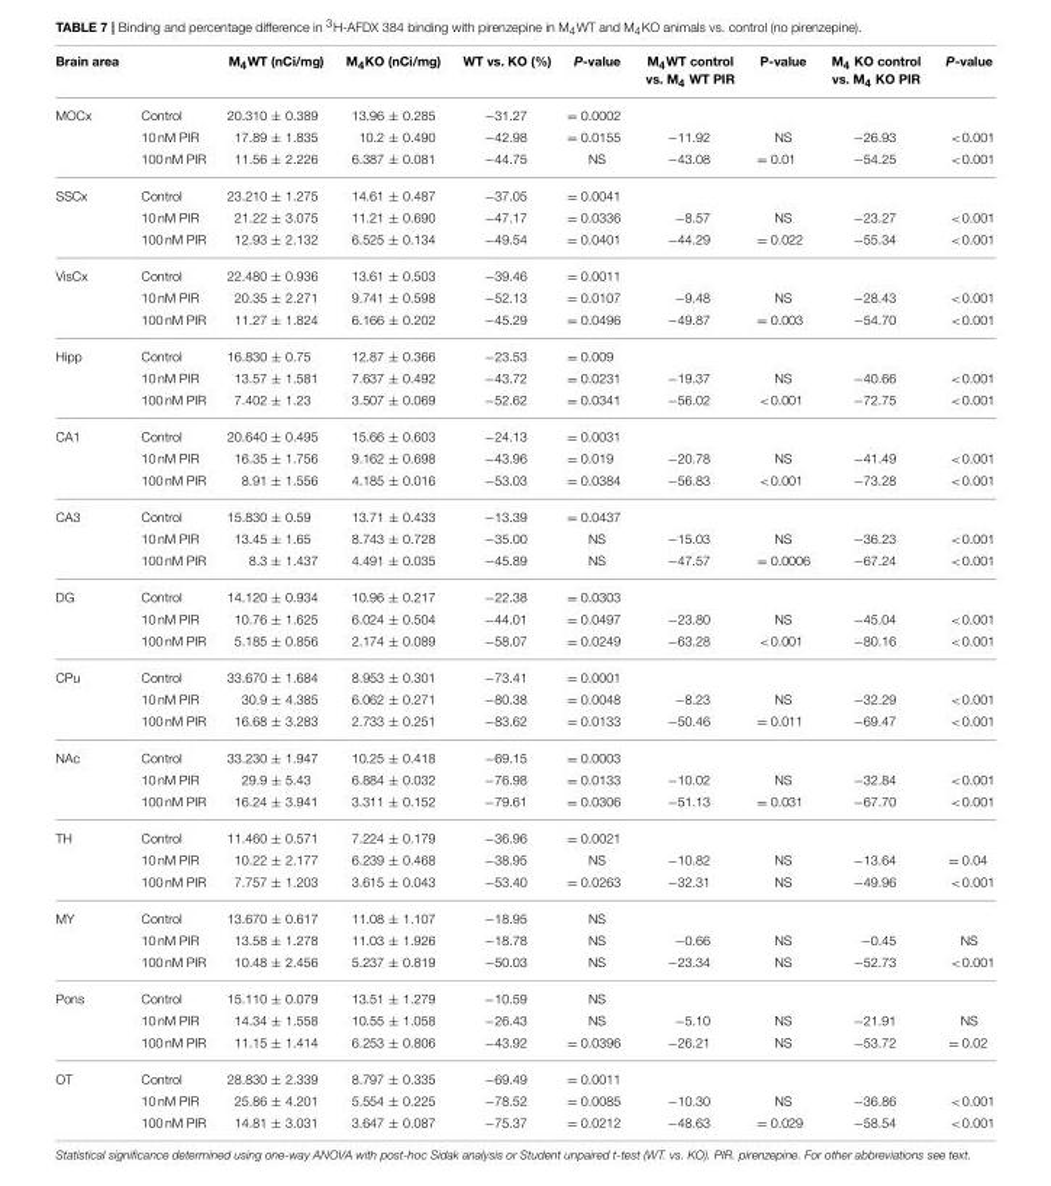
<table><thead><tr><td>Brain area</td><td></td><td>M<sub>4</sub>WT (nCi/mg)</td><td>M<sub>4</sub>KO (nCi/mg)</td><td>WT vs. KO (%)</td><td>P-value</td><td>M<sub>4</sub>WT control vs. M<sub>4</sub> WT PIR</td><td>P-value</td><td>M<sub>4</sub> KO control vs. M<sub>4</sub> KO PIR</td><td>P-value</td></tr></thead><tbody><tr><td rowspan="3">MOCx</td><td>Control</td><td>20.310 ± 0.389</td><td>13.96 ± 0.285</td><td>−31.27</td><td>= 0.0002</td><td></td><td></td><td></td><td></td></tr><tr><td>10 nM PIR</td><td>17.89 ± 1.835</td><td>10.2 ± 0.490</td><td>−42.98</td><td>= 0.0155</td><td>−11.92</td><td>NS</td><td>−26.93</td><td>&lt;0.001</td></tr><tr><td>100 nM PIR</td><td>11.56 ± 2.226</td><td>6.387 ± 0.081</td><td>−44.75</td><td>NS</td><td>−43.08</td><td>= 0.01</td><td>−54.25</td><td>&lt;0.001</td></tr><tr><td rowspan="3">SSCx</td><td>Control</td><td>23.210 ± 1.275</td><td>14.61 ± 0.487</td><td>−37.05</td><td>= 0.0041</td><td></td><td></td><td></td><td></td></tr><tr><td>10 nM PIR</td><td>21.22 ± 3.075</td><td>11.21 ± 0.690</td><td>−47.17</td><td>= 0.0336</td><td>−8.57</td><td>NS</td><td>−23.27</td><td>&lt;0.001</td></tr><tr><td>100 nM PIR</td><td>12.93 ± 2.132</td><td>6.525 ± 0.134</td><td>−49.54</td><td>= 0.0401</td><td>−44.29</td><td>= 0.022</td><td>−55.34</td><td>&lt;0.001</td></tr><tr><td rowspan="3">VisCx</td><td>Control</td><td>22.480 ± 0.936</td><td>13.61 ± 0.503</td><td>−39.46</td><td>= 0.0011</td><td></td><td></td><td></td><td></td></tr><tr><td>10 nM PIR</td><td>20.35 ± 2.271</td><td>9.741 ± 0.598</td><td>−52.13</td><td>= 0.0107</td><td>−9.48</td><td>NS</td><td>−28.43</td><td>&lt;0.001</td></tr><tr><td>100 nM PIR</td><td>11.27 ± 1.824</td><td>6.166 ± 0.202</td><td>−45.29</td><td>= 0.0496</td><td>−49.87</td><td>= 0.003</td><td>−54.70</td><td>&lt;0.001</td></tr><tr><td rowspan="3">Hipp</td><td>Control</td><td>16.830 ± 0.75</td><td>12.87 ± 0.366</td><td>−23.53</td><td>= 0.009</td><td></td><td></td><td></td><td></td></tr><tr><td>10 nM PIR</td><td>13.57 ± 1.581</td><td>7.637 ± 0.492</td><td>−43.72</td><td>= 0.0231</td><td>−19.37</td><td>NS</td><td>−40.66</td><td>&lt;0.001</td></tr><tr><td>100 nM PIR</td><td>7.402 ± 1.23</td><td>3.507 ± 0.069</td><td>−52.62</td><td>= 0.0341</td><td>−56.02</td><td>&lt;0.001</td><td>−72.75</td><td>&lt;0.001</td></tr><tr><td rowspan="3">CA1</td><td>Control</td><td>20.640 ± 0.495</td><td>15.66 ± 0.603</td><td>−24.13</td><td>= 0.0031</td><td></td><td></td><td></td><td></td></tr><tr><td>10 nM PIR</td><td>16.35 ± 1.756</td><td>9.162 ± 0.698</td><td>−43.96</td><td>= 0.019</td><td>−20.78</td><td>NS</td><td>−41.49</td><td>&lt;0.001</td></tr><tr><td>100 nM PIR</td><td>8.91 ± 1.556</td><td>4.185 ± 0.016</td><td>−53.03</td><td>= 0.0384</td><td>−56.83</td><td>&lt;0.001</td><td>−73.28</td><td>&lt;0.001</td></tr><tr><td rowspan="3">CA3</td><td>Control</td><td>15.830 ± 0.59</td><td>13.71 ± 0.433</td><td>−13.39</td><td>= 0.0437</td><td></td><td></td><td></td><td></td></tr><tr><td>10 nM PIR</td><td>13.45 ± 1.65</td><td>8.743 ± 0.728</td><td>−35.00</td><td>NS</td><td>−15.03</td><td>NS</td><td>−36.23</td><td>&lt;0.001</td></tr><tr><td>100 nM PIR</td><td>8.3 ± 1.437</td><td>4.491 ± 0.035</td><td>−45.89</td><td>NS</td><td>−47.57</td><td>= 0.0006</td><td>−67.24</td><td>&lt;0.001</td></tr><tr><td rowspan="3">DG</td><td>Control</td><td>14.120 ± 0.934</td><td>10.96 ± 0.217</td><td>−22.38</td><td>= 0.0303</td><td></td><td></td><td></td><td></td></tr><tr><td>10 nM PIR</td><td>10.76 ± 1.625</td><td>6.024 ± 0.504</td><td>−44.01</td><td>= 0.0497</td><td>−23.80</td><td>NS</td><td>−45.04</td><td>&lt;0.001</td></tr><tr><td>100 nM PIR</td><td>5.185 ± 0.856</td><td>2.174 ± 0.089</td><td>−58.07</td><td>= 0.0249</td><td>−63.28</td><td>&lt;0.001</td><td>−80.16</td><td>&lt;0.001</td></tr><tr><td rowspan="3">CPu</td><td>Control</td><td>33.670 ± 1.684</td><td>8.953 ± 0.301</td><td>−73.41</td><td>= 0.0001</td><td></td><td></td><td></td><td></td></tr><tr><td>10 nM PIR</td><td>30.9 ± 4.385</td><td>6.062 ± 0.271</td><td>−80.38</td><td>= 0.0048</td><td>−8.23</td><td>NS</td><td>−32.29</td><td>&lt;0.001</td></tr><tr><td>100 nM PIR</td><td>16.68 ± 3.283</td><td>2.733 ± 0.251</td><td>−83.62</td><td>= 0.0133</td><td>−50.46</td><td>= 0.011</td><td>−69.47</td><td>&lt;0.001</td></tr><tr><td rowspan="3">NAc</td><td>Control</td><td>33.230 ± 1.947</td><td>10.25 ± 0.418</td><td>−69.15</td><td>= 0.0003</td><td></td><td></td><td></td><td></td></tr><tr><td>10 nM PIR</td><td>29.9 ± 5.43</td><td>6.884 ± 0.032</td><td>−76.98</td><td>= 0.0133</td><td>−10.02</td><td>NS</td><td>−32.84</td><td>&lt;0.001</td></tr><tr><td>100 nM PIR</td><td>16.24 ± 3.941</td><td>3.311 ± 0.152</td><td>−79.61</td><td>= 0.0306</td><td>−51.13</td><td>= 0.031</td><td>−67.70</td><td>&lt;0.001</td></tr><tr><td rowspan="3">TH</td><td>Control</td><td>11.460 ± 0.571</td><td>7.224 ± 0.179</td><td>−36.96</td><td>= 0.0021</td><td></td><td></td><td></td><td></td></tr><tr><td>10 nM PIR</td><td>10.22 ± 2.177</td><td>6.239 ± 0.468</td><td>−38.95</td><td>NS</td><td>−10.82</td><td>NS</td><td>−13.64</td><td>= 0.04</td></tr><tr><td>100 nM PIR</td><td>7.757 ± 1.203</td><td>3.615 ± 0.043</td><td>−53.40</td><td>= 0.0263</td><td>−32.31</td><td>NS</td><td>−49.96</td><td>&lt;0.001</td></tr><tr><td rowspan="3">MY</td><td>Control</td><td>13.670 ± 0.617</td><td>11.08 ± 1.107</td><td>−18.95</td><td>NS</td><td></td><td></td><td></td><td></td></tr><tr><td>10 nM PIR</td><td>13.58 ± 1.278</td><td>11.03 ± 1.926</td><td>−18.78</td><td>NS</td><td>−0.66</td><td>NS</td><td>−0.45</td><td>NS</td></tr><tr><td>100 nM PIR</td><td>10.48 ± 2.456</td><td>5.237 ± 0.819</td><td>−50.03</td><td>NS</td><td>−23.34</td><td>NS</td><td>−52.73</td><td>&lt;0.001</td></tr><tr><td rowspan="3">Pons</td><td>Control</td><td>15.110 ± 0.079</td><td>13.51 ± 1.279</td><td>−10.59</td><td>NS</td><td></td><td></td><td></td><td></td></tr><tr><td>10 nM PIR</td><td>14.34 ± 1.558</td><td>10.55 ± 1.058</td><td>−26.43</td><td>NS</td><td>−5.10</td><td>NS</td><td>−21.91</td><td>NS</td></tr><tr><td>100 nM PIR</td><td>11.15 ± 1.414</td><td>6.253 ± 0.806</td><td>−43.92</td><td>= 0.0396</td><td>−26.21</td><td>NS</td><td>−53.72</td><td>= 0.02</td></tr><tr><td rowspan="3">OT</td><td>Control</td><td>28.830 ± 2.339</td><td>8.797 ± 0.335</td><td>−69.49</td><td>= 0.0011</td><td></td><td></td><td></td><td></td></tr><tr><td>10 nM PIR</td><td>25.86 ± 4.201</td><td>5.554 ± 0.225</td><td>−78.52</td><td>= 0.0085</td><td>−10.30</td><td>NS</td><td>−36.86</td><td>&lt;0.001</td></tr><tr><td>100 nM PIR</td><td>14.81 ± 3.031</td><td>3.647 ± 0.087</td><td>−75.37</td><td>= 0.0212</td><td>−48.63</td><td>= 0.029</td><td>−58.54</td><td>&lt;0.001</td></tr></tbody></table>